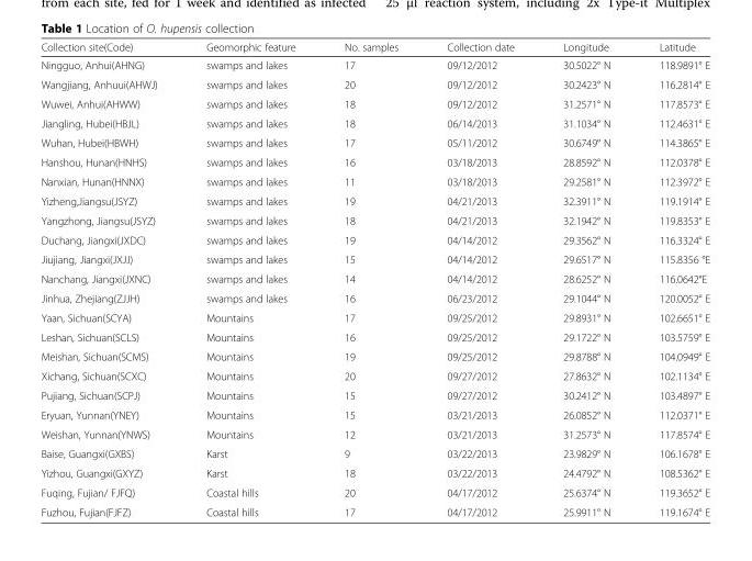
<table><thead><tr><td>Collection site(Code)</td><td>Geomorphic feature</td><td>No. samples</td><td>Collection date</td><td>Longitude</td><td>Latitude</td></tr></thead><tbody><tr><td>Ningguo, Anhui(AHNG)</td><td>swamps and lakes</td><td>17</td><td>09/12/2012</td><td>30.5022° N</td><td>118.9891° E</td></tr><tr><td>Wangjiang, Anhuui(AHWJ)</td><td>swamps and lakes</td><td>20</td><td>09/12/2012</td><td>30.2423° N</td><td>116.2814° E</td></tr><tr><td>Wuwei, Anhui(AHWW)</td><td>swamps and lakes</td><td>18</td><td>09/12/2012</td><td>31.2571° N</td><td>117.8573° E</td></tr><tr><td>Jiangling, Hubei(HBJL)</td><td>swamps and lakes</td><td>18</td><td>06/14/2013</td><td>31.1034° N</td><td>112.4631° E</td></tr><tr><td>Wuhan, Hubei(HBWH)</td><td>swamps and lakes</td><td>17</td><td>05/11/2012</td><td>30.6749° N</td><td>114.3865° E</td></tr><tr><td>Hanshou, Hunan(HNHS)</td><td>swamps and lakes</td><td>16</td><td>03/18/2013</td><td>28.8592° N</td><td>112.0378° E</td></tr><tr><td>Nanxian, Hunan(HNNX)</td><td>swamps and lakes</td><td>11</td><td>03/18/2013</td><td>29.2581° N</td><td>112.3972° E</td></tr><tr><td>Yizheng,Jiangsu(JSYZ)</td><td>swamps and lakes</td><td>19</td><td>04/21/2013</td><td>32.3911° N</td><td>119.1914° E</td></tr><tr><td>Yangzhong, Jiangsu(JSYZ)</td><td>swamps and lakes</td><td>18</td><td>04/21/2013</td><td>32.1942° N</td><td>119.8353° E</td></tr><tr><td>Duchang, Jiangxi(JXDC)</td><td>swamps and lakes</td><td>19</td><td>04/14/2012</td><td>29.3562° N</td><td>116.3324° E</td></tr><tr><td>Jiujiang, Jiangxi(JXJJ)</td><td>swamps and lakes</td><td>15</td><td>04/14/2012</td><td>29.6517° N</td><td>115.8356 °E</td></tr><tr><td>Nanchang, Jiangxi(JXNC)</td><td>swamps and lakes</td><td>14</td><td>04/14/2012</td><td>28.6252° N</td><td>116.0642°E</td></tr><tr><td>Jinhua, Zhejiang(ZJJH)</td><td>swamps and lakes</td><td>16</td><td>06/23/2012</td><td>29.1044° N</td><td>120.0052° E</td></tr><tr><td>Yaan, Sichuan(SCYA)</td><td>Mountains</td><td>17</td><td>09/25/2012</td><td>29.8931° N</td><td>102.6651° E</td></tr><tr><td>Leshan, Sichuan(SCLS)</td><td>Mountains</td><td>16</td><td>09/25/2012</td><td>29.1722° N</td><td>103.5759° E</td></tr><tr><td>Meishan, Sichuan(SCMS)</td><td>Mountains</td><td>19</td><td>09/25/2012</td><td>29.8788° N</td><td>104.0949° E</td></tr><tr><td>Xichang, Sichuan(SCXC)</td><td>Mountains</td><td>20</td><td>09/27/2012</td><td>27.8632° N</td><td>102.1134° E</td></tr><tr><td>Pujiang, Sichuan(SCPJ)</td><td>Mountains</td><td>15</td><td>09/27/2012</td><td>30.2412° N</td><td>103.4897° E</td></tr><tr><td>Eryuan, Yunnan(YNEY)</td><td>Mountains</td><td>15</td><td>03/21/2013</td><td>26.0852° N</td><td>112.0371° E</td></tr><tr><td>Weishan, Yunnan(YNWS)</td><td>Mountains</td><td>12</td><td>03/21/2013</td><td>31.2573° N</td><td>117.8574° E</td></tr><tr><td>Baise, Guangxi(GXBS)</td><td>Karst</td><td>9</td><td>03/22/2013</td><td>23.9829° N</td><td>106.1678° E</td></tr><tr><td>Yizhou, Guangxi(GXYZ)</td><td>Karst</td><td>18</td><td>03/22/2013</td><td>24.4792° N</td><td>108.5362° E</td></tr><tr><td>Fuqing, Fujian/ FJFQ)</td><td>Coastal hills</td><td>20</td><td>04/17/2012</td><td>25.6374° N</td><td>119.3652° E</td></tr><tr><td>Fuzhou, Fujian(FJFZ)</td><td>Coastal hills</td><td>17</td><td>04/17/2012</td><td>25.9911° N</td><td>119.1674° E</td></tr></tbody></table>